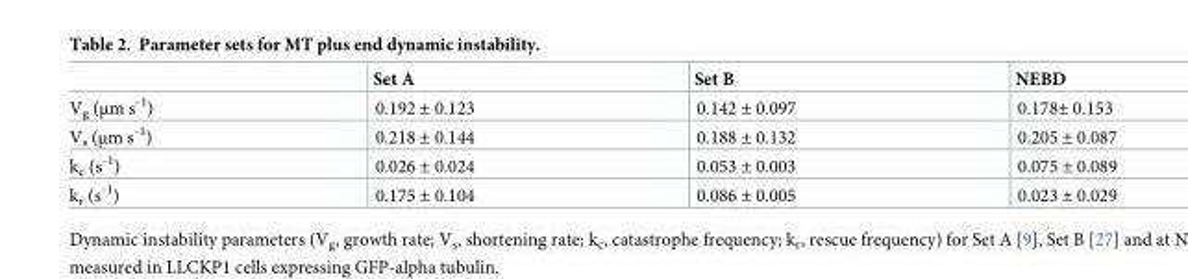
<table><thead><tr><td></td><td>Set A</td><td>Set B</td><td>NEBD</td></tr></thead><tbody><tr><td>V<sub>g</sub> (μm s<sup>-1</sup>)</td><td>0.192 ± 0.123</td><td>0.142 ± 0.097</td><td>0.178± 0.153</td></tr><tr><td>V<sub>s</sub> (μm s<sup>-1</sup>)</td><td>0.218 ± 0.144</td><td>0.188 ± 0.132</td><td>0.205 ± 0.087</td></tr><tr><td>k<sub>c</sub> (s<sup>-1</sup>)</td><td>0.026 ± 0.024</td><td>0.053 ± 0.003</td><td>0.075 ± 0.089</td></tr><tr><td>k<sub>r</sub> (s<sup>-1</sup>)</td><td>0.175 ± 0.104</td><td>0.086 ± 0.005</td><td>0.023 ± 0.029</td></tr></tbody></table>